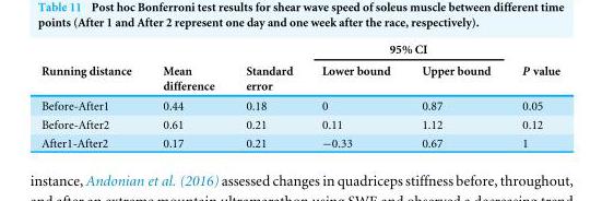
<table><thead><tr><td rowspan="2">Running distance</td><td rowspan="2">Mean difference</td><td rowspan="2">Standard error</td><td colspan="2">95% CI</td><td rowspan="2">P value</td></tr><tr><td>Lower bound</td><td>Upper bound</td></tr></thead><tbody><tr><td>Before-After1</td><td>0.44</td><td>0.18</td><td>0</td><td>0.87</td><td>0.05</td></tr><tr><td>Before-After2</td><td>0.61</td><td>0.21</td><td>0.11</td><td>1.12</td><td>0.12</td></tr><tr><td>After1-After2</td><td>0.17</td><td>0.21</td><td>−0.33</td><td>0.67</td><td>1</td></tr></tbody></table>